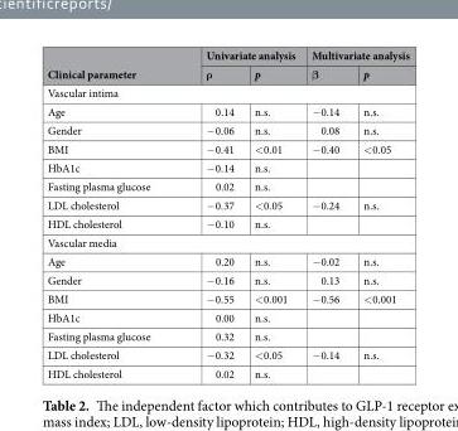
<table><thead><tr><td rowspan="2">Clinical parameter</td><td colspan="2">Univariate analysis</td><td colspan="2">Multivariate analysis</td></tr><tr><td>ρ</td><td>p</td><td>β</td><td>p</td></tr></thead><tbody><tr><td colspan="5">Vascular intima</td></tr><tr><td>Age</td><td>0.14</td><td>n.s.</td><td>−0.14</td><td>n.s.</td></tr><tr><td>Gender</td><td>−0.06</td><td>n.s.</td><td>0.08</td><td>n.s.</td></tr><tr><td>BMI</td><td>−0.41</td><td>&lt;0.01</td><td>−0.40</td><td>&lt;0.05</td></tr><tr><td>HbA1c</td><td>−0.14</td><td>n.s.</td><td></td><td></td></tr><tr><td>Fasting plasma glucose</td><td>0.02</td><td>n.s.</td><td></td><td></td></tr><tr><td>LDL cholesterol</td><td>−0.37</td><td>&lt;0.05</td><td>−0.24</td><td>n.s.</td></tr><tr><td>HDL cholesterol</td><td>−0.10</td><td>n.s.</td><td></td><td></td></tr><tr><td colspan="5">Vascular media</td></tr><tr><td>Age</td><td>0.20</td><td>n.s.</td><td>−0.02</td><td>n.s.</td></tr><tr><td>Gender</td><td>−0.16</td><td>n.s.</td><td>0.13</td><td>n.s.</td></tr><tr><td>BMI</td><td>−0.55</td><td>&lt;0.001</td><td>−0.56</td><td>&lt;0.001</td></tr><tr><td>HbA1c</td><td>0.00</td><td>n.s.</td><td></td><td></td></tr><tr><td>Fasting plasma glucose</td><td>0.32</td><td>n.s.</td><td></td><td></td></tr><tr><td>LDL cholesterol</td><td>−0.32</td><td>&lt;0.05</td><td>−0.14</td><td>n.s.</td></tr><tr><td>HDL cholesterol</td><td>0.02</td><td>n.s.</td><td></td><td></td></tr></tbody></table>